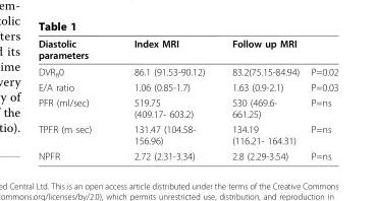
<table><thead><tr><td>Diastolic parameters</td><td>Index MRI</td><td>Follow up MRI</td><td></td></tr></thead><tbody><tr><td>DVR<sub>8</sub>0</td><td>86.1 (91.53-90.12)</td><td>83.2(75.15-84.94)</td><td>P=0.02</td></tr><tr><td>E/A ratio</td><td>1.06 (0.85-1.7)</td><td>1.63 (0.9-2.1)</td><td>P=0.03</td></tr><tr><td>PFR (ml/sec)</td><td>519.75 (409.17- 603.2)</td><td>530 (469.6- 661.25)</td><td>P=ns</td></tr><tr><td>TPFR (m sec)</td><td>131.47 (104.58- 156.96)</td><td>134.19 (116.21- 164.31)</td><td>P=ns</td></tr><tr><td>NPFR</td><td>2.72 (2.31-3.34)</td><td>2.8 (2.29-3.54)</td><td>P=ns</td></tr></tbody></table>